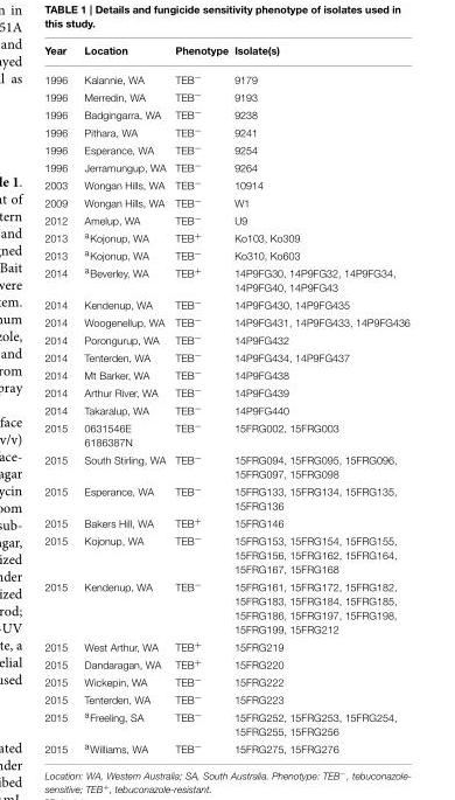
<table><thead><tr><td>Year</td><td>Location</td><td>Phenotype</td><td>Isolate(s)</td></tr></thead><tbody><tr><td>1996</td><td>Kalannie, WA</td><td>TEB<sup>−</sup></td><td>9179</td></tr><tr><td>1996</td><td>Merredin, WA</td><td>TEB<sup>−</sup></td><td>9193</td></tr><tr><td>1996</td><td>Badgingarra, WA</td><td>TEB<sup>−</sup></td><td>9238</td></tr><tr><td>1996</td><td>Pithara, WA</td><td>TEB<sup>−</sup></td><td>9241</td></tr><tr><td>1996</td><td>Esperance, WA</td><td>TEB<sup>−</sup></td><td>9254</td></tr><tr><td>1996</td><td>Jerramungup, WA</td><td>TEB<sup>−</sup></td><td>9264</td></tr><tr><td>2003</td><td>Wongan Hills, WA</td><td>TEB<sup>−</sup></td><td>10914</td></tr><tr><td>2009</td><td>Wongan Hills, WA</td><td>TEB<sup>−</sup></td><td>W1</td></tr><tr><td>2012</td><td>Amelup, WA</td><td>TEB<sup>−</sup></td><td>U9</td></tr><tr><td>2013</td><td><sup>a</sup>Kojonup, WA</td><td>TEB<sup>+</sup></td><td>Ko103, Ko309</td></tr><tr><td>2013</td><td><sup>a</sup>Kojonup, WA</td><td>TEB<sup>−</sup></td><td>Ko310, Ko603</td></tr><tr><td>2014</td><td><sup>a</sup>Beverley, WA</td><td>TEB<sup>+</sup></td><td>14P9FG30, 14P9FG32, 14P9FG34, 14P9FG40, 14P9FG43</td></tr><tr><td>2014</td><td>Kendenup, WA</td><td>TEB<sup>−</sup></td><td>14P9FG430, 14P9FG435</td></tr><tr><td>2014</td><td>Woogenellup, WA</td><td>TEB<sup>−</sup></td><td>14P9FG431, 14P9FG433, 14P9FG436</td></tr><tr><td>2014</td><td>Porongurup, WA</td><td>TEB<sup>−</sup></td><td>14P9FG432</td></tr><tr><td>2014</td><td>Tenterden, WA</td><td>TEB<sup>−</sup></td><td>14P9FG434, 14P9FG437</td></tr><tr><td>2014</td><td>Mt Barker, WA</td><td>TEB<sup>−</sup></td><td>14P9FG438</td></tr><tr><td>2014</td><td>Arthur River, WA</td><td>TEB<sup>−</sup></td><td>14P9FG439</td></tr><tr><td>2014</td><td>Takaralup, WA</td><td>TEB<sup>−</sup></td><td>14P9FG440</td></tr><tr><td>2015</td><td>0631546E 6186387N</td><td>TEB<sup>−</sup></td><td>15FRG002, 15FRG003</td></tr><tr><td>2015</td><td>South Stirling, WA</td><td>TEB<sup>−</sup></td><td>15FRG094, 15FRG095, 15FRG096, 15FRG097, 15FRG098</td></tr><tr><td>2015</td><td>Esperance, WA</td><td>TEB<sup>−</sup></td><td>15FRG133, 15FRG134, 15FRG135, 15FRG136</td></tr><tr><td>2015</td><td>Bakers Hill, WA</td><td>TEB<sup>+</sup></td><td>15FRG146</td></tr><tr><td>2015</td><td>Kojonup, WA</td><td>TEB<sup>−</sup></td><td>15FRG153, 15FRG154, 15FRG155, 15FRG156, 15FRG162, 15FRG164, 15FRG167, 15FRG168</td></tr><tr><td>2015</td><td>Kendenup, WA</td><td>TEB<sup>−</sup></td><td>15FRG161, 15FRG172, 15FRG182, 15FRG183, 15FRG184, 15FRG185, 15FRG186, 15FRG197, 15FRG198, 15FRG199, 15FRG212</td></tr><tr><td>2015</td><td>West Arthur, WA</td><td>TEB<sup>+</sup></td><td>15FRG219</td></tr><tr><td>2015</td><td>Dandaragan, WA</td><td>TEB<sup>+</sup></td><td>15FRG220</td></tr><tr><td>2015</td><td>Wickepin, WA</td><td>TEB<sup>−</sup></td><td>15FRG222</td></tr><tr><td>2015</td><td>Tenterden, WA</td><td>TEB<sup>−</sup></td><td>15FRG223</td></tr><tr><td>2015</td><td><sup>a</sup>Freeling, SA</td><td>TEB<sup>−</sup></td><td>15FRG252, 15FRG253, 15FRG254, 15FRG255, 15FRG256</td></tr><tr><td>2015</td><td><sup>a</sup>Williams, WA</td><td>TEB<sup>−</sup></td><td>15FRG275, 15FRG276</td></tr></tbody></table>